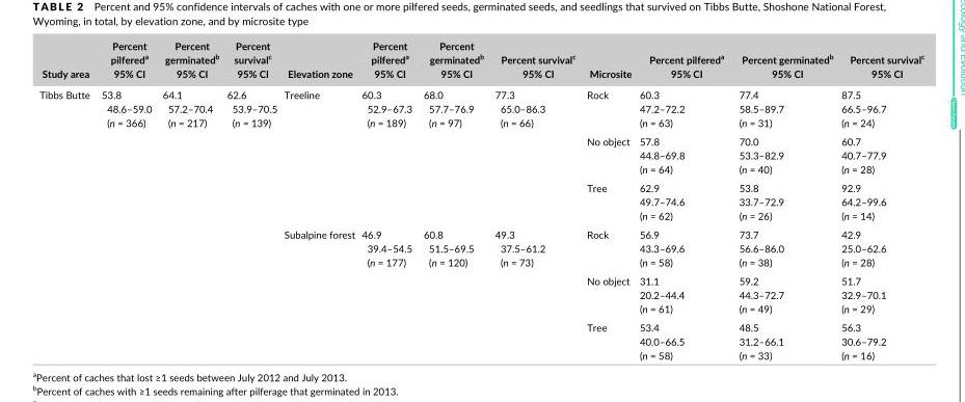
<table><thead><tr><td>Study area</td><td>Percent pilfered<sup>a</sup> 95% CI</td><td>Percent germinated<sup>b</sup> 95% CI</td><td>Percent survival<sup>c</sup> 95% CI</td><td>Elevation zone</td><td>Percent pilfered<sup>a</sup> 95% CI</td><td>Percent germinated<sup>b</sup> 95% CI</td><td>Percent survival<sup>c</sup> 95% CI</td><td>Microsite</td><td>Percent pilfered<sup>a</sup> 95% CI</td><td>Percent germinated<sup>b</sup> 95% CI</td><td>Percent survival<sup>c</sup> 95% CI</td></tr></thead><tbody><tr><td rowspan="6">Tibbs Butte</td><td rowspan="6">53.8 48.6–59.0 (n = 366)</td><td rowspan="6">64.1 57.2–70.4 (n = 217)</td><td rowspan="6">62.6 53.9–70.5 (n = 139)</td><td rowspan="3">Treeline</td><td rowspan="3">60.3 52.9–67.3 (n = 189)</td><td rowspan="3">68.0 57.7–76.9 (n = 97)</td><td rowspan="3">77.3 65.0–86.3 (n = 66)</td><td>Rock</td><td>60.3 47.2–72.2 (n = 63)</td><td>77.4 58.5–89.7 (n = 31)</td><td>87.5 66.5–96.7 (n = 24)</td></tr><tr><td>No object</td><td>57.8 44.8–69.8 (n = 64)</td><td>70.0 53.3–82.9 (n = 40)</td><td>60.7 40.7–77.9 (n = 28)</td></tr><tr><td>Tree</td><td>62.9 49.7–74.6 (n = 62)</td><td>53.8 33.7–72.9 (n = 26)</td><td>92.9 64.2–99.6 (n = 14)</td></tr><tr><td rowspan="3">Subalpine forest</td><td rowspan="3">46.9 39.4–54.5 (n = 177)</td><td rowspan="3">60.8 51.5–69.5 (n = 120)</td><td rowspan="3">49.3 37.5–61.2 (n = 73)</td><td>Rock</td><td>56.9 43.3–69.6 (n = 58)</td><td>73.7 56.6–86.0 (n = 38)</td><td>42.9 25.0–62.6 (n = 28)</td></tr><tr><td>No object</td><td>31.1 20.2–44.4 (n = 61)</td><td>59.2 44.3–72.7 (n = 49)</td><td>51.7 32.9–70.1 (n = 29)</td></tr><tr><td>Tree</td><td>53.4 40.0–66.5 (n = 58)</td><td>48.5 31.2–66.1 (n = 33)</td><td>56.3 30.6–79.2 (n = 16)</td></tr></tbody></table>